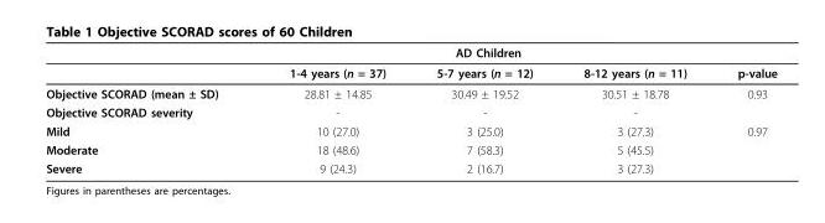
<table><thead><tr><td rowspan="2"></td><td colspan="3">AD Children</td><td rowspan="2">p-value</td></tr><tr><td>1-4 years (n = 37)</td><td>5-7 years (n = 12)</td><td>8-12 years (n = 11)</td></tr></thead><tbody><tr><td>Objective SCORAD (mean ± SD)</td><td>28.81 ± 14.85</td><td>30.49 ± 19.52</td><td>30.51 ± 18.78</td><td>0.93</td></tr><tr><td>Objective SCORAD severity</td><td>-</td><td>-</td><td>-</td><td></td></tr><tr><td>Mild</td><td>10 (27.0)</td><td>3 (25.0)</td><td>3 (27.3)</td><td>0.97</td></tr><tr><td>Moderate</td><td>18 (48.6)</td><td>7 (58.3)</td><td>5 (45.5)</td><td></td></tr><tr><td>Severe</td><td>9 (24.3)</td><td>2 (16.7)</td><td>3 (27.3)</td><td></td></tr></tbody></table>